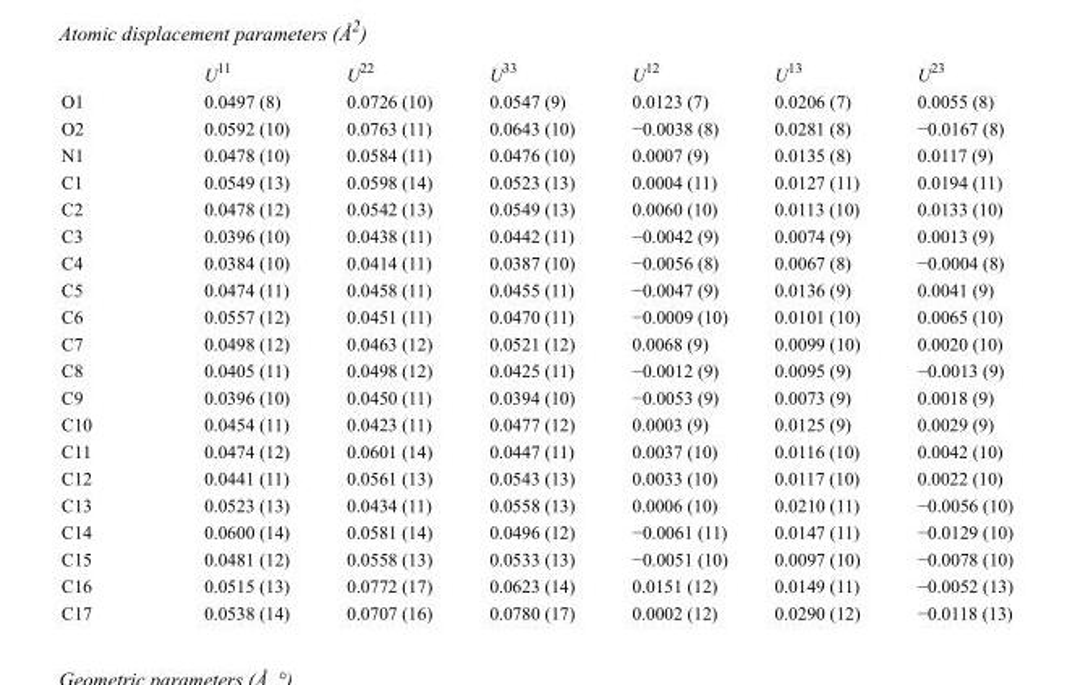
<table><thead><tr><td></td><td>U<sup>11</sup></td><td>U<sup>22</sup></td><td>U<sup>33</sup></td><td>U<sup>12</sup></td><td>U<sup>13</sup></td><td>U<sup>23</sup></td></tr></thead><tbody><tr><td>O1</td><td>0.0497 (8)</td><td>0.0726 (10)</td><td>0.0547 (9)</td><td>0.0123 (7)</td><td>0.0206 (7)</td><td>0.0055 (8)</td></tr><tr><td>O2</td><td>0.0592 (10)</td><td>0.0763 (11)</td><td>0.0643 (10)</td><td>−0.0038 (8)</td><td>0.0281 (8)</td><td>−0.0167 (8)</td></tr><tr><td>N1</td><td>0.0478 (10)</td><td>0.0584 (11)</td><td>0.0476 (10)</td><td>0.0007 (9)</td><td>0.0135 (8)</td><td>0.0117 (9)</td></tr><tr><td>C1</td><td>0.0549 (13)</td><td>0.0598 (14)</td><td>0.0523 (13)</td><td>0.0004 (11)</td><td>0.0127 (11)</td><td>0.0194 (11)</td></tr><tr><td>C2</td><td>0.0478 (12)</td><td>0.0542 (13)</td><td>0.0549 (13)</td><td>0.0060 (10)</td><td>0.0113 (10)</td><td>0.0133 (10)</td></tr><tr><td>C3</td><td>0.0396 (10)</td><td>0.0438 (11)</td><td>0.0442 (11)</td><td>−0.0042 (9)</td><td>0.0074 (9)</td><td>0.0013 (9)</td></tr><tr><td>C4</td><td>0.0384 (10)</td><td>0.0414 (11)</td><td>0.0387 (10)</td><td>−0.0056 (8)</td><td>0.0067 (8)</td><td>−0.0004 (8)</td></tr><tr><td>C5</td><td>0.0474 (11)</td><td>0.0458 (11)</td><td>0.0455 (11)</td><td>−0.0047 (9)</td><td>0.0136 (9)</td><td>0.0041 (9)</td></tr><tr><td>C6</td><td>0.0557 (12)</td><td>0.0451 (11)</td><td>0.0470 (11)</td><td>−0.0009 (10)</td><td>0.0101 (10)</td><td>0.0065 (10)</td></tr><tr><td>C7</td><td>0.0498 (12)</td><td>0.0463 (12)</td><td>0.0521 (12)</td><td>0.0068 (9)</td><td>0.0099 (10)</td><td>0.0020 (10)</td></tr><tr><td>C8</td><td>0.0405 (11)</td><td>0.0498 (12)</td><td>0.0425 (11)</td><td>−0.0012 (9)</td><td>0.0095 (9)</td><td>−0.0013 (9)</td></tr><tr><td>C9</td><td>0.0396 (10)</td><td>0.0450 (11)</td><td>0.0394 (10)</td><td>−0.0053 (9)</td><td>0.0073 (9)</td><td>0.0018 (9)</td></tr><tr><td>C10</td><td>0.0454 (11)</td><td>0.0423 (11)</td><td>0.0477 (12)</td><td>0.0003 (9)</td><td>0.0125 (9)</td><td>0.0029 (9)</td></tr><tr><td>C11</td><td>0.0474 (12)</td><td>0.0601 (14)</td><td>0.0447 (11)</td><td>0.0037 (10)</td><td>0.0116 (10)</td><td>0.0042 (10)</td></tr><tr><td>C12</td><td>0.0441 (11)</td><td>0.0561 (13)</td><td>0.0543 (13)</td><td>0.0033 (10)</td><td>0.0117 (10)</td><td>0.0022 (10)</td></tr><tr><td>C13</td><td>0.0523 (13)</td><td>0.0434 (11)</td><td>0.0558 (13)</td><td>0.0006 (10)</td><td>0.0210 (11)</td><td>−0.0056 (10)</td></tr><tr><td>C14</td><td>0.0600 (14)</td><td>0.0581 (14)</td><td>0.0496 (12)</td><td>−0.0061 (11)</td><td>0.0147 (11)</td><td>−0.0129 (10)</td></tr><tr><td>C15</td><td>0.0481 (12)</td><td>0.0558 (13)</td><td>0.0533 (13)</td><td>−0.0051 (10)</td><td>0.0097 (10)</td><td>−0.0078 (10)</td></tr><tr><td>C16</td><td>0.0515 (13)</td><td>0.0772 (17)</td><td>0.0623 (14)</td><td>0.0151 (12)</td><td>0.0149 (11)</td><td>−0.0052 (13)</td></tr><tr><td>C17</td><td>0.0538 (14)</td><td>0.0707 (16)</td><td>0.0780 (17)</td><td>0.0002 (12)</td><td>0.0290 (12)</td><td>−0.0118 (13)</td></tr></tbody></table>